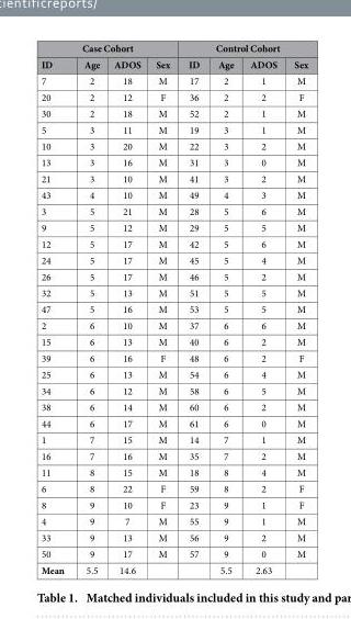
<table><thead><tr><td colspan="4">Case Cohort</td><td colspan="4">Control Cohort</td></tr><tr><td>ID</td><td>Age</td><td>ADOS</td><td>Sex</td><td>ID</td><td>Age</td><td>ADOS</td><td>Sex</td></tr></thead><tbody><tr><td>7</td><td>2</td><td>18</td><td>M</td><td>17</td><td>2</td><td>1</td><td>M</td></tr><tr><td>20</td><td>2</td><td>12</td><td>F</td><td>36</td><td>2</td><td>2</td><td>F</td></tr><tr><td>30</td><td>2</td><td>18</td><td>M</td><td>52</td><td>2</td><td>1</td><td>M</td></tr><tr><td>5</td><td>3</td><td>11</td><td>M</td><td>19</td><td>3</td><td>1</td><td>M</td></tr><tr><td>10</td><td>3</td><td>20</td><td>M</td><td>22</td><td>3</td><td>2</td><td>M</td></tr><tr><td>13</td><td>3</td><td>16</td><td>M</td><td>31</td><td>3</td><td>0</td><td>M</td></tr><tr><td>21</td><td>3</td><td>10</td><td>M</td><td>41</td><td>3</td><td>2</td><td>M</td></tr><tr><td>43</td><td>4</td><td>10</td><td>M</td><td>49</td><td>4</td><td>3</td><td>M</td></tr><tr><td>3</td><td>5</td><td>21</td><td>M</td><td>28</td><td>5</td><td>6</td><td>M</td></tr><tr><td>9</td><td>5</td><td>12</td><td>M</td><td>29</td><td>5</td><td>5</td><td>M</td></tr><tr><td>12</td><td>5</td><td>17</td><td>M</td><td>42</td><td>5</td><td>6</td><td>M</td></tr><tr><td>24</td><td>5</td><td>17</td><td>M</td><td>45</td><td>5</td><td>4</td><td>M</td></tr><tr><td>26</td><td>5</td><td>17</td><td>M</td><td>46</td><td>5</td><td>2</td><td>M</td></tr><tr><td>32</td><td>5</td><td>13</td><td>M</td><td>51</td><td>5</td><td>5</td><td>M</td></tr><tr><td>47</td><td>5</td><td>16</td><td>M</td><td>53</td><td>5</td><td>5</td><td>M</td></tr><tr><td>2</td><td>6</td><td>10</td><td>M</td><td>37</td><td>6</td><td>6</td><td>M</td></tr><tr><td>15</td><td>6</td><td>13</td><td>M</td><td>40</td><td>6</td><td>2</td><td>M</td></tr><tr><td>39</td><td>6</td><td>16</td><td>F</td><td>48</td><td>6</td><td>2</td><td>F</td></tr><tr><td>25</td><td>6</td><td>13</td><td>M</td><td>54</td><td>6</td><td>4</td><td>M</td></tr><tr><td>34</td><td>6</td><td>12</td><td>M</td><td>58</td><td>6</td><td>5</td><td>M</td></tr><tr><td>38</td><td>6</td><td>14</td><td>M</td><td>60</td><td>6</td><td>2</td><td>M</td></tr><tr><td>44</td><td>6</td><td>17</td><td>M</td><td>61</td><td>6</td><td>0</td><td>M</td></tr><tr><td>1</td><td>7</td><td>15</td><td>M</td><td>14</td><td>7</td><td>1</td><td>M</td></tr><tr><td>16</td><td>7</td><td>16</td><td>M</td><td>35</td><td>7</td><td>2</td><td>M</td></tr><tr><td>11</td><td>8</td><td>15</td><td>M</td><td>18</td><td>8</td><td>4</td><td>M</td></tr><tr><td>6</td><td>8</td><td>22</td><td>F</td><td>59</td><td>8</td><td>2</td><td>F</td></tr><tr><td>8</td><td>9</td><td>10</td><td>F</td><td>23</td><td>9</td><td>1</td><td>F</td></tr><tr><td>4</td><td>9</td><td>7</td><td>M</td><td>55</td><td>9</td><td>1</td><td>M</td></tr><tr><td>33</td><td>9</td><td>13</td><td>M</td><td>56</td><td>9</td><td>2</td><td>M</td></tr><tr><td>50</td><td>9</td><td>17</td><td>M</td><td>57</td><td>9</td><td>0</td><td>M</td></tr><tr><td>Mean</td><td>5.5</td><td>14.6</td><td></td><td></td><td>5.5</td><td>2.63</td><td></td></tr></tbody></table>